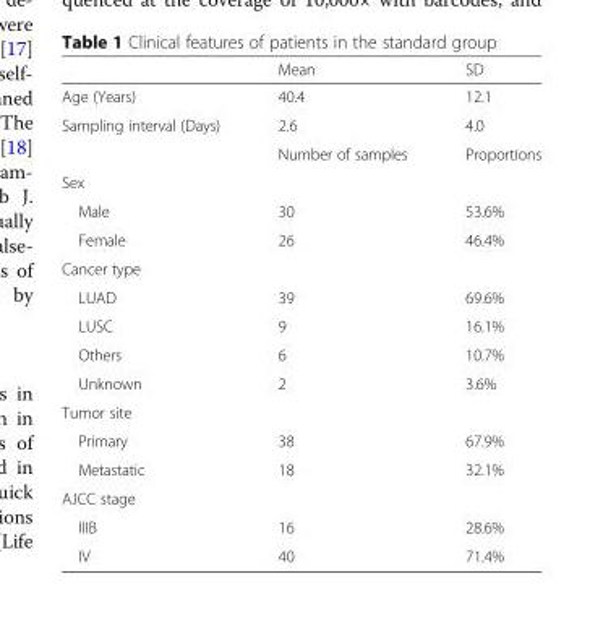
<table><thead><tr><td></td><td>Mean</td><td>SD</td></tr></thead><tbody><tr><td>Age (Years)</td><td>40.4</td><td>12.1</td></tr><tr><td rowspan="2">Sampling interval (Days)</td><td>2.6</td><td>4.0</td></tr><tr><td>Number of samples</td><td>Proportions</td></tr><tr><td colspan="3">Sex</td></tr><tr><td>Male</td><td>30</td><td>53.6%</td></tr><tr><td>Female</td><td>26</td><td>46.4%</td></tr><tr><td colspan="3">Cancer type</td></tr><tr><td>LUAD</td><td>39</td><td>69.6%</td></tr><tr><td>LUSC</td><td>9</td><td>16.1%</td></tr><tr><td>Others</td><td>6</td><td>10.7%</td></tr><tr><td>Unknown</td><td>2</td><td>3.6%</td></tr><tr><td colspan="3">Tumor site</td></tr><tr><td>Primary</td><td>38</td><td>67.9%</td></tr><tr><td>Metastatic</td><td>18</td><td>32.1%</td></tr><tr><td colspan="3">AJCC stage</td></tr><tr><td>IIIB</td><td>16</td><td>28.6%</td></tr><tr><td>IV</td><td>40</td><td>71.4%</td></tr></tbody></table>